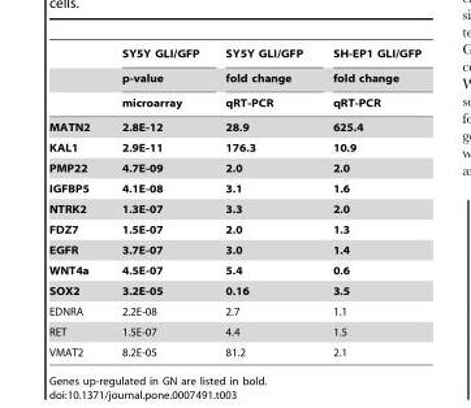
<table><thead><tr><td rowspan="3"></td><td rowspan="3">SY5Y GLI/GFP p-value microarray</td><td rowspan="3">SY5Y GLI/GFP fold change qRT-PCR</td><td rowspan="3">SH-EP1 GLI/GFP fold change qRT-PCR</td></tr><tr></tr><tr></tr></thead><tbody><tr><td>MATN2</td><td>2.8E-12</td><td>28.9</td><td>625.4</td></tr><tr><td>KAL1</td><td>2.9E-11</td><td>176.3</td><td>10.9</td></tr><tr><td>PMP22</td><td>4.7E-09</td><td>2.0</td><td>2.0</td></tr><tr><td>IGFBP5</td><td>4.1E-08</td><td>3.1</td><td>1.6</td></tr><tr><td>NTRK2</td><td>1.3E-07</td><td>3.3</td><td>2.0</td></tr><tr><td>FDZ7</td><td>1.5E-07</td><td>2.0</td><td>1.3</td></tr><tr><td>EGFR</td><td>3.7E-07</td><td>3.0</td><td>1.4</td></tr><tr><td>WNT4a</td><td>4.5E-07</td><td>5.4</td><td>0.6</td></tr><tr><td>SOX2</td><td>3.2E-05</td><td>0.16</td><td>3.5</td></tr><tr><td>EDNRA</td><td>2.2E-08</td><td>2.7</td><td>1.1</td></tr><tr><td>RET</td><td>1.5E-07</td><td>4.4</td><td>1.5</td></tr><tr><td>VMAT2</td><td>8.2E-05</td><td>81.2</td><td>2.1</td></tr></tbody></table>